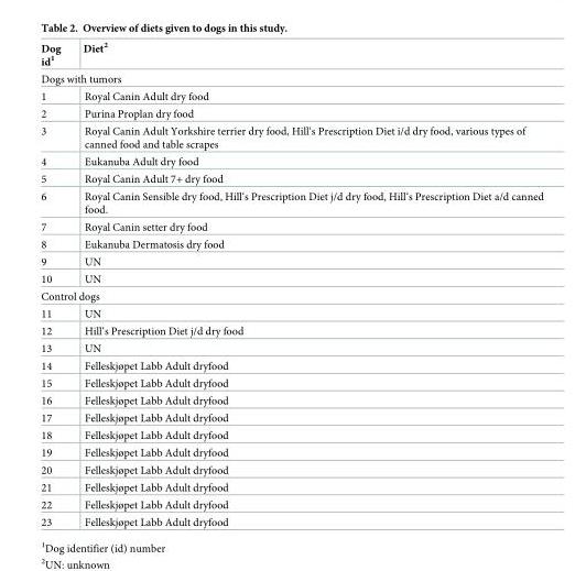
<table><thead><tr><td>Dog id<sup>1</sup></td><td>Diet<sup>2</sup></td></tr></thead><tbody><tr><td colspan="2">Dogs with tumors</td></tr><tr><td>1</td><td>Royal Canin Adult dry food</td></tr><tr><td>2</td><td>Purina Proplan dry food</td></tr><tr><td>3</td><td>Royal Canin Adult Yorkshire terrier dry food, Hill‘s Prescription Diet i/d dry food, various types of canned food and table scrapes</td></tr><tr><td>4</td><td>Eukanuba Adult dry food</td></tr><tr><td>5</td><td>Royal Canin Adult 7+ dry food</td></tr><tr><td>6</td><td>Royal Canin Sensible dry food, Hill‘s Prescription Diet j/d dry food, Hill‘s Prescription Diet a/d canned food.</td></tr><tr><td>7</td><td>Royal Canin setter dry food</td></tr><tr><td>8</td><td>Eukanuba Dermatosis dry food</td></tr><tr><td>9</td><td>UN</td></tr><tr><td>10</td><td>UN</td></tr><tr><td colspan="2">Control dogs</td></tr><tr><td>11</td><td>UN</td></tr><tr><td>12</td><td>Hill‘s Prescription Diet j/d dry food</td></tr><tr><td>13</td><td>UN</td></tr><tr><td>14</td><td>Felleskjøpet Labb Adult dryfood</td></tr><tr><td>15</td><td>Felleskjøpet Labb Adult dryfood</td></tr><tr><td>16</td><td>Felleskjøpet Labb Adult dryfood</td></tr><tr><td>17</td><td>Felleskjøpet Labb Adult dryfood</td></tr><tr><td>18</td><td>Felleskjøpet Labb Adult dryfood</td></tr><tr><td>19</td><td>Felleskjøpet Labb Adult dryfood</td></tr><tr><td>20</td><td>Felleskjøpet Labb Adult dryfood</td></tr><tr><td>21</td><td>Felleskjøpet Labb Adult dryfood</td></tr><tr><td>22</td><td>Felleskjøpet Labb Adult dryfood</td></tr><tr><td>23</td><td>Felleskjøpet Labb Adult dryfood</td></tr></tbody></table>